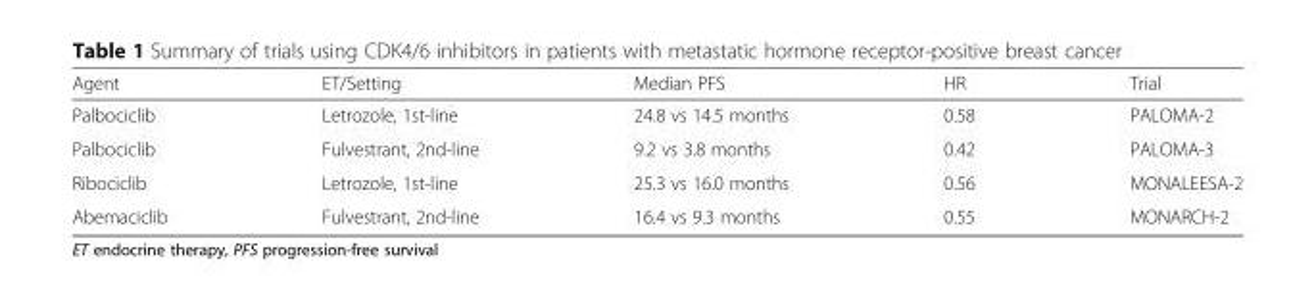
<table><thead><tr><td>Agent</td><td>ET/Setting</td><td>Median PFS</td><td>HR</td><td>Trial</td></tr></thead><tbody><tr><td>Palbociclib</td><td>Letrozole, 1st-line</td><td>24.8 vs 14.5 months</td><td>0.58</td><td>PALOMA-2</td></tr><tr><td>Palbociclib</td><td>Fulvestrant, 2nd-line</td><td>9.2 vs 3.8 months</td><td>0.42</td><td>PALOMA-3</td></tr><tr><td>Ribociclib</td><td>Letrozole, 1st-line</td><td>25.3 vs 16.0 months</td><td>0.56</td><td>MONALEESA-2</td></tr><tr><td>Abemaciclib</td><td>Fulvestrant, 2nd-line</td><td>16.4 vs 9.3 months</td><td>0.55</td><td>MONARCH-2</td></tr></tbody></table>